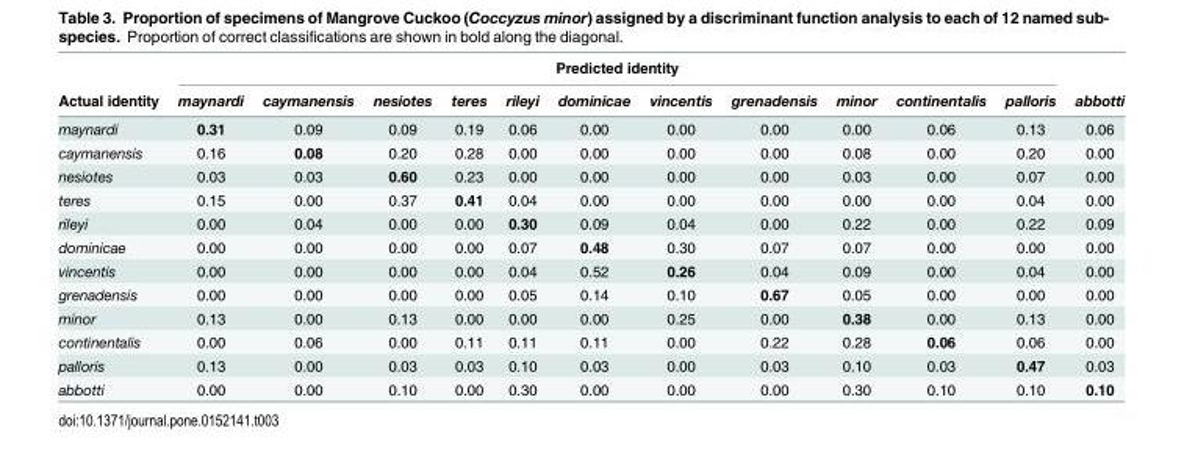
<table><thead><tr><td rowspan="2">Actual identity</td><td colspan="11">Predicted identity</td><td rowspan="2">abbotti</td></tr><tr><td>maynardi</td><td>caymanensis</td><td>nesiotes</td><td>teres</td><td>rileyi</td><td>dominicae</td><td>vincentis</td><td>grenadensis</td><td>minor</td><td>continentalis</td><td>palloris</td></tr></thead><tbody><tr><td>maynardi</td><td>0.31</td><td>0.09</td><td>0.09</td><td>0.19</td><td>0.06</td><td>0.00</td><td>0.00</td><td>0.00</td><td>0.00</td><td>0.06</td><td>0.13</td><td>0.06</td></tr><tr><td>caymanensis</td><td>0.16</td><td>0.08</td><td>0.20</td><td>0.28</td><td>0.00</td><td>0.00</td><td>0.00</td><td>0.00</td><td>0.08</td><td>0.00</td><td>0.20</td><td>0.00</td></tr><tr><td>nesiotes</td><td>0.03</td><td>0.03</td><td>0.60</td><td>0.23</td><td>0.00</td><td>0.00</td><td>0.00</td><td>0.00</td><td>0.03</td><td>0.00</td><td>0.07</td><td>0.00</td></tr><tr><td>teres</td><td>0.15</td><td>0.00</td><td>0.37</td><td>0.41</td><td>0.04</td><td>0.00</td><td>0.00</td><td>0.00</td><td>0.00</td><td>0.00</td><td>0.04</td><td>0.00</td></tr><tr><td>rileyi</td><td>0.00</td><td>0.04</td><td>0.00</td><td>0.00</td><td>0.30</td><td>0.09</td><td>0.04</td><td>0.00</td><td>0.22</td><td>0.00</td><td>0.22</td><td>0.09</td></tr><tr><td>dominicae</td><td>0.00</td><td>0.00</td><td>0.00</td><td>0.00</td><td>0.07</td><td>0.48</td><td>0.30</td><td>0.07</td><td>0.07</td><td>0.00</td><td>0.00</td><td>0.00</td></tr><tr><td>vincentis</td><td>0.00</td><td>0.00</td><td>0.00</td><td>0.00</td><td>0.04</td><td>0.52</td><td>0.26</td><td>0.04</td><td>0.09</td><td>0.00</td><td>0.04</td><td>0.00</td></tr><tr><td>grenadensis</td><td>0.00</td><td>0.00</td><td>0.00</td><td>0.00</td><td>0.05</td><td>0.14</td><td>0.10</td><td>0.67</td><td>0.05</td><td>0.00</td><td>0.00</td><td>0.00</td></tr><tr><td>minor</td><td>0.13</td><td>0.00</td><td>0.13</td><td>0.00</td><td>0.00</td><td>0.00</td><td>0.25</td><td>0.00</td><td>0.38</td><td>0.00</td><td>0.13</td><td>0.00</td></tr><tr><td>continentalis</td><td>0.00</td><td>0.06</td><td>0.00</td><td>0.11</td><td>0.11</td><td>0.11</td><td>0.00</td><td>0.22</td><td>0.28</td><td>0.06</td><td>0.06</td><td>0.00</td></tr><tr><td>palloris</td><td>0.13</td><td>0.00</td><td>0.03</td><td>0.03</td><td>0.10</td><td>0.03</td><td>0.00</td><td>0.03</td><td>0.10</td><td>0.03</td><td>0.47</td><td>0.03</td></tr><tr><td>abbotti</td><td>0.00</td><td>0.00</td><td>0.10</td><td>0.00</td><td>0.30</td><td>0.00</td><td>0.00</td><td>0.00</td><td>0.30</td><td>0.10</td><td>0.10</td><td>0.10</td></tr></tbody></table>